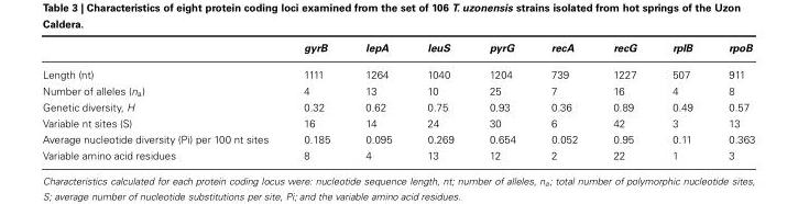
<table><thead><tr><td></td><td>gyrB</td><td>lepA</td><td>leuS</td><td>pyrG</td><td>recA</td><td>recG</td><td>rplB</td><td>rpoB</td></tr></thead><tbody><tr><td>Length (nt)</td><td>1111</td><td>1264</td><td>1040</td><td>1204</td><td>739</td><td>1227</td><td>507</td><td>911</td></tr><tr><td>Number of alleles (n<sub>a</sub>)</td><td>4</td><td>13</td><td>10</td><td>25</td><td>7</td><td>16</td><td>4</td><td>8</td></tr><tr><td>Genetic diversity, H</td><td>0.32</td><td>0.62</td><td>0.75</td><td>0.93</td><td>0.36</td><td>0.89</td><td>0.49</td><td>0.57</td></tr><tr><td>Variable nt sites (S)</td><td>16</td><td>14</td><td>24</td><td>30</td><td>6</td><td>42</td><td>3</td><td>13</td></tr><tr><td>Average nucleotide diversity (Pi) per 100 nt sites</td><td>0.185</td><td>0.095</td><td>0.269</td><td>0.654</td><td>0.052</td><td>0.95</td><td>0.11</td><td>0.363</td></tr><tr><td>Variable amino acid residues</td><td>8</td><td>4</td><td>13</td><td>12</td><td>2</td><td>22</td><td>1</td><td>3</td></tr></tbody></table>